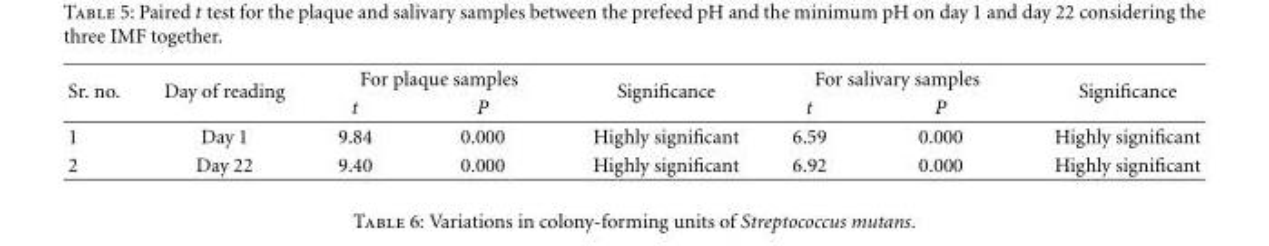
<table><thead><tr><td rowspan="2">Sr. no.</td><td rowspan="2">Day of reading</td><td colspan="2">For plaque samples</td><td rowspan="2">Significance</td><td colspan="2">For salivary samples</td><td rowspan="2">Significance</td></tr><tr><td>t</td><td>P</td><td>t</td><td>P</td></tr></thead><tbody><tr><td>1</td><td>Day 1</td><td>9.84</td><td>0.000</td><td>Highly significant</td><td>6.59</td><td>0.000</td><td>Highly significant</td></tr><tr><td>2</td><td>Day 22</td><td>9.40</td><td>0.000</td><td>Highly significant</td><td>6.92</td><td>0.000</td><td>Highly significant</td></tr></tbody></table>